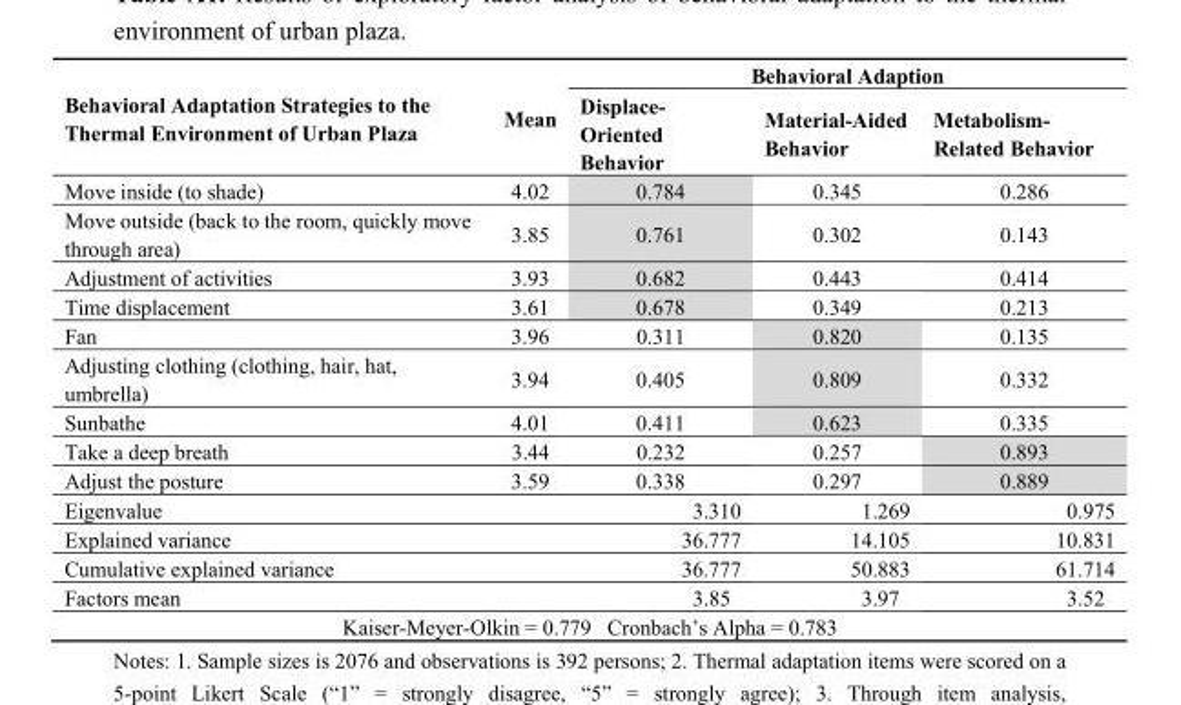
<table><thead><tr><td rowspan="2">Behavioral Adaptation Strategies to the Thermal Environment of Urban Plaza</td><td rowspan="2">Mean</td><td colspan="3">Behavioral Adaption</td></tr><tr><td>Displace- Oriented Behavior</td><td>Material-Aided Behavior</td><td>Metabolism- Related Behavior</td></tr></thead><tbody><tr><td>Move inside (to shade)</td><td>4.02</td><td>0.784</td><td>0.345</td><td>0.286</td></tr><tr><td>Move outside (back to the room, quickly move through area)</td><td>3.85</td><td>0.761</td><td>0.302</td><td>0.143</td></tr><tr><td>Adjustment of activities</td><td>3.93</td><td>0.682</td><td>0.443</td><td>0.414</td></tr><tr><td>Time displacement</td><td>3.61</td><td>0.678</td><td>0.349</td><td>0.213</td></tr><tr><td>Fan</td><td>3.96</td><td>0.311</td><td>0.820</td><td>0.135</td></tr><tr><td>Adjusting clothing (clothing, hair, hat, umbrella)</td><td>3.94</td><td>0.405</td><td>0.809</td><td>0.332</td></tr><tr><td>Sunbathe</td><td>4.01</td><td>0.411</td><td>0.623</td><td>0.335</td></tr><tr><td>Take a deep breath</td><td>3.44</td><td>0.232</td><td>0.257</td><td>0.893</td></tr><tr><td>Adjust the posture</td><td>3.59</td><td>0.338</td><td>0.297</td><td>0.889</td></tr><tr><td>Eigenvalue</td><td></td><td>3.310</td><td>1.269</td><td>0.975</td></tr><tr><td>Explained variance</td><td></td><td>36.777</td><td>14.105</td><td>10.831</td></tr><tr><td>Cumulative explained variance</td><td></td><td>36.777</td><td>50.883</td><td>61.714</td></tr><tr><td>Factors mean</td><td></td><td>3.85</td><td>3.97</td><td>3.52</td></tr><tr><td colspan="5">Kaiser-Meyer-Olkin = 0.779 Cronbach’s Alpha = 0.783</td></tr></tbody></table>